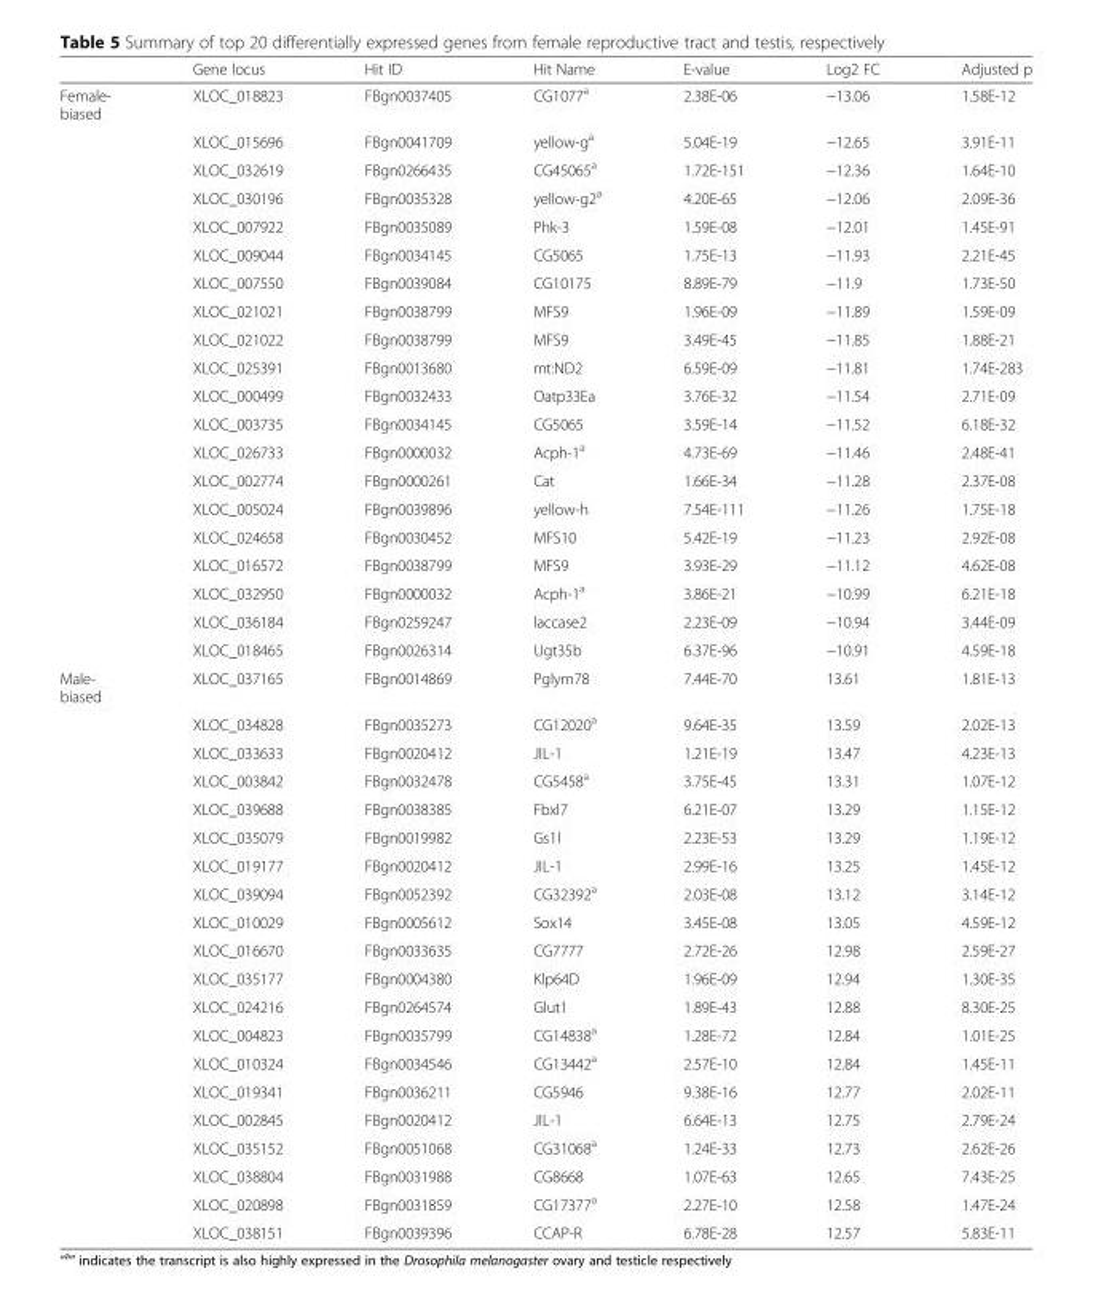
<table><thead><tr><td></td><td>Gene locus</td><td>Hit ID</td><td>Hit Name</td><td>E-value</td><td>Log2 FC</td><td>Adjusted p</td></tr></thead><tbody><tr><td rowspan="20">Female- biased</td><td>XLOC_018823</td><td>FBgn0037405</td><td>CG1077<sup>a</sup></td><td>2.38E-06</td><td>−13.06</td><td>1.58E-12</td></tr><tr><td>XLOC_015696</td><td>FBgn0041709</td><td>yellow-g<sup>a</sup></td><td>5.04E-19</td><td>−12.65</td><td>3.91E-11</td></tr><tr><td>XLOC_032619</td><td>FBgn0266435</td><td>CG45065<sup>a</sup></td><td>1.72E-151</td><td>−12.36</td><td>1.64E-10</td></tr><tr><td>XLOC_030196</td><td>FBgn0035328</td><td>yellow-g2<sup>a</sup></td><td>4.20E-65</td><td>−12.06</td><td>2.09E-36</td></tr><tr><td>XLOC_007922</td><td>FBgn0035089</td><td>Phk-3</td><td>1.59E-08</td><td>−12.01</td><td>1.45E-91</td></tr><tr><td>XLOC_009044</td><td>FBgn0034145</td><td>CG5065</td><td>1.75E-13</td><td>−11.93</td><td>2.21E-45</td></tr><tr><td>XLOC_007550</td><td>FBgn0039084</td><td>CG10175</td><td>8.89E-79</td><td>−11.9</td><td>1.73E-50</td></tr><tr><td>XLOC_021021</td><td>FBgn0038799</td><td>MFS9</td><td>1.96E-09</td><td>−11.89</td><td>1.59E-09</td></tr><tr><td>XLOC_021022</td><td>FBgn0038799</td><td>MFS9</td><td>3.49E-45</td><td>−11.85</td><td>1.88E-21</td></tr><tr><td>XLOC_025391</td><td>FBgn0013680</td><td>mt:ND2</td><td>6.59E-09</td><td>−11.81</td><td>1.74E-283</td></tr><tr><td>XLOC_000499</td><td>FBgn0032433</td><td>Oatp33Ea</td><td>3.76E-32</td><td>−11.54</td><td>2.71E-09</td></tr><tr><td>XLOC_003735</td><td>FBgn0034145</td><td>CG5065</td><td>3.59E-14</td><td>−11.52</td><td>6.18E-32</td></tr><tr><td>XLOC_026733</td><td>FBgn0000032</td><td>Acph-1<sup>a</sup></td><td>4.73E-69</td><td>−11.46</td><td>2.48E-41</td></tr><tr><td>XLOC_002774</td><td>FBgn0000261</td><td>Cat</td><td>1.66E-34</td><td>−11.28</td><td>2.37E-08</td></tr><tr><td>XLOC_005024</td><td>FBgn0039896</td><td>yellow-h</td><td>7.54E-111</td><td>−11.26</td><td>1.75E-18</td></tr><tr><td>XLOC_024658</td><td>FBgn0030452</td><td>MFS10</td><td>5.42E-19</td><td>−11.23</td><td>2.92E-08</td></tr><tr><td>XLOC_016572</td><td>FBgn0038799</td><td>MFS9</td><td>3.93E-29</td><td>−11.12</td><td>4.62E-08</td></tr><tr><td>XLOC_032950</td><td>FBgn0000032</td><td>Acph-1<sup>a</sup></td><td>3.86E-21</td><td>−10.99</td><td>6.21E-18</td></tr><tr><td>XLOC_036184</td><td>FBgn0259247</td><td>laccase2</td><td>2.23E-09</td><td>−10.94</td><td>3.44E-09</td></tr><tr><td>XLOC_018465</td><td>FBgn0026314</td><td>Ugt35b</td><td>6.37E-96</td><td>−10.91</td><td>4.59E-18</td></tr><tr><td rowspan="20">Male- biased</td><td>XLOC_037165</td><td>FBgn0014869</td><td>Pglym78</td><td>7.44E-70</td><td>13.61</td><td>1.81E-13</td></tr><tr><td>XLOC_034828</td><td>FBgn0035273</td><td>CG12020<sup>a</sup></td><td>9.64E-35</td><td>13.59</td><td>2.02E-13</td></tr><tr><td>XLOC_033633</td><td>FBgn0020412</td><td>JIL-1</td><td>1.21E-19</td><td>13.47</td><td>4.23E-13</td></tr><tr><td>XLOC_003842</td><td>FBgn0032478</td><td>CG5458<sup>a</sup></td><td>3.75E-45</td><td>13.31</td><td>1.07E-12</td></tr><tr><td>XLOC_039688</td><td>FBgn0038385</td><td>Fbxl7</td><td>6.21E-07</td><td>13.29</td><td>1.15E-12</td></tr><tr><td>XLOC_035079</td><td>FBgn0019982</td><td>Gs1l</td><td>2.23E-53</td><td>13.29</td><td>1.19E-12</td></tr><tr><td>XLOC_019177</td><td>FBgn0020412</td><td>JIL-1</td><td>2.99E-16</td><td>13.25</td><td>1.45E-12</td></tr><tr><td>XLOC_039094</td><td>FBgn0052392</td><td>CG32392<sup>a</sup></td><td>2.03E-08</td><td>13.12</td><td>3.14E-12</td></tr><tr><td>XLOC_010029</td><td>FBgn0005612</td><td>Sox14</td><td>3.45E-08</td><td>13.05</td><td>4.59E-12</td></tr><tr><td>XLOC_016670</td><td>FBgn0033635</td><td>CG7777</td><td>2.72E-26</td><td>12.98</td><td>2.59E-27</td></tr><tr><td>XLOC_035177</td><td>FBgn0004380</td><td>Klp64D</td><td>1.96E-09</td><td>12.94</td><td>1.30E-35</td></tr><tr><td>XLOC_024216</td><td>FBgn0264574</td><td>Glut1</td><td>1.89E-43</td><td>12.88</td><td>8.30E-25</td></tr><tr><td>XLOC_004823</td><td>FBgn0035799</td><td>CG14838<sup>a</sup></td><td>1.28E-72</td><td>12.84</td><td>1.01E-25</td></tr><tr><td>XLOC_010324</td><td>FBgn0034546</td><td>CG13442<sup>a</sup></td><td>2.57E-10</td><td>12.84</td><td>1.45E-11</td></tr><tr><td>XLOC_019341</td><td>FBgn0036211</td><td>CG5946</td><td>9.38E-16</td><td>12.77</td><td>2.02E-11</td></tr><tr><td>XLOC_002845</td><td>FBgn0020412</td><td>JIL-1</td><td>6.64E-13</td><td>12.75</td><td>2.79E-24</td></tr><tr><td>XLOC_035152</td><td>FBgn0051068</td><td>CG31068<sup>a</sup></td><td>1.24E-33</td><td>12.73</td><td>2.62E-26</td></tr><tr><td>XLOC_038804</td><td>FBgn0031988</td><td>CG8668</td><td>1.07E-63</td><td>12.65</td><td>7.43E-25</td></tr><tr><td>XLOC_020898</td><td>FBgn0031859</td><td>CG17377<sup>a</sup></td><td>2.27E-10</td><td>12.58</td><td>1.47E-24</td></tr><tr><td>XLOC_038151</td><td>FBgn0039396</td><td>CCAP-R</td><td>6.78E-28</td><td>12.57</td><td>5.83E-11</td></tr></tbody></table>